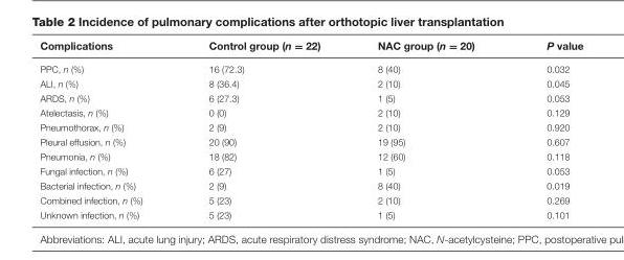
<table><thead><tr><td>Complications</td><td>Control group (n = 22)</td><td>NAC group (n = 20)</td><td>P value</td></tr></thead><tbody><tr><td>PPC, n (%)</td><td>16 (72.3)</td><td>8 (40)</td><td>0.032</td></tr><tr><td>ALI, n (%)</td><td>8 (36.4)</td><td>2 (10)</td><td>0.045</td></tr><tr><td>ARDS, n (%)</td><td>6 (27.3)</td><td>1 (5)</td><td>0.053</td></tr><tr><td>Atelectasis, n (%)</td><td>0 (0)</td><td>2 (10)</td><td>0.129</td></tr><tr><td>Pneumothorax, n (%)</td><td>2 (9)</td><td>2 (10)</td><td>0.920</td></tr><tr><td>Pleural effusion, n (%)</td><td>20 (90)</td><td>19 (95)</td><td>0.607</td></tr><tr><td>Pneumonia, n (%)</td><td>18 (82)</td><td>12 (60)</td><td>0.118</td></tr><tr><td>Fungal infection, n (%)</td><td>6 (27)</td><td>1 (5)</td><td>0.053</td></tr><tr><td>Bacterial infection, n (%)</td><td>2 (9)</td><td>8 (40)</td><td>0.019</td></tr><tr><td>Combined infection, n (%)</td><td>5 (23)</td><td>2 (10)</td><td>0.269</td></tr><tr><td>Unknown infection, n (%)</td><td>5 (23)</td><td>1 (5)</td><td>0.101</td></tr></tbody></table>